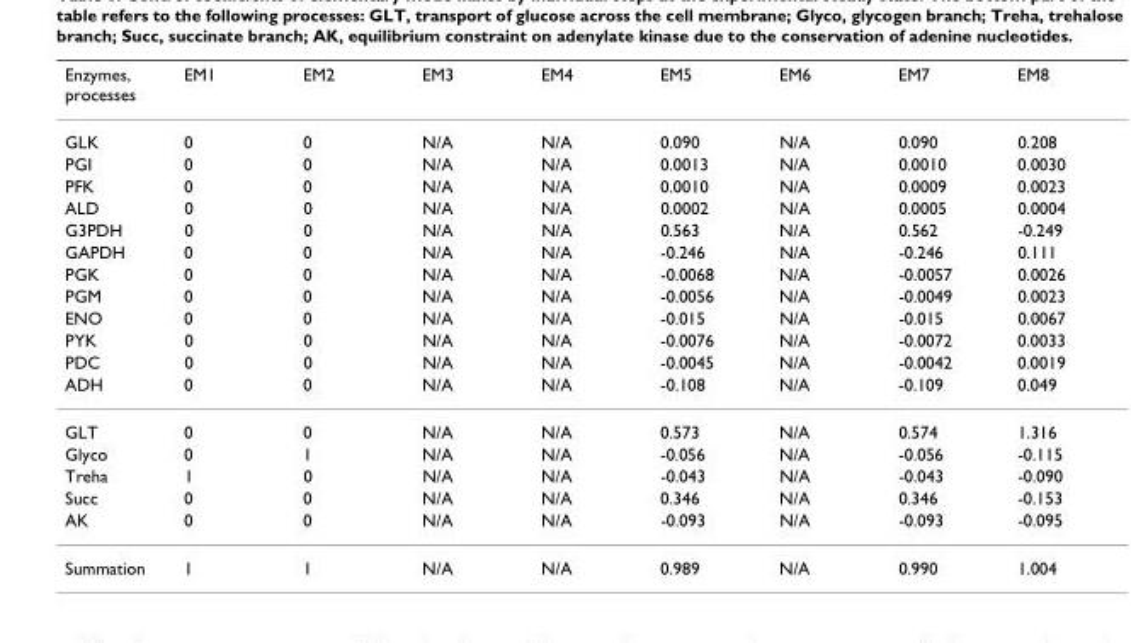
<table><thead><tr><td>Enzymes, processes</td><td>EM1</td><td>EM2</td><td>EM3</td><td>EM4</td><td>EM5</td><td>EM6</td><td>EM7</td><td>EM8</td></tr></thead><tbody><tr><td>GLK</td><td>0</td><td>0</td><td>N/A</td><td>N/A</td><td>0.090</td><td>N/A</td><td>0.090</td><td>0.208</td></tr><tr><td>PGI</td><td>0</td><td>0</td><td>N/A</td><td>N/A</td><td>0.0013</td><td>N/A</td><td>0.0010</td><td>0.0030</td></tr><tr><td>PFK</td><td>0</td><td>0</td><td>N/A</td><td>N/A</td><td>0.0010</td><td>N/A</td><td>0.0009</td><td>0.0023</td></tr><tr><td>ALD</td><td>0</td><td>0</td><td>N/A</td><td>N/A</td><td>0.0002</td><td>N/A</td><td>0.0005</td><td>0.0004</td></tr><tr><td>G3PDH</td><td>0</td><td>0</td><td>N/A</td><td>N/A</td><td>0.563</td><td>N/A</td><td>0.562</td><td>-0.249</td></tr><tr><td>GAPDH</td><td>0</td><td>0</td><td>N/A</td><td>N/A</td><td>-0.246</td><td>N/A</td><td>-0.246</td><td>0.111</td></tr><tr><td>PGK</td><td>0</td><td>0</td><td>N/A</td><td>N/A</td><td>-0.0068</td><td>N/A</td><td>-0.0057</td><td>0.0026</td></tr><tr><td>PGM</td><td>0</td><td>0</td><td>N/A</td><td>N/A</td><td>-0.0056</td><td>N/A</td><td>-0.0049</td><td>0.0023</td></tr><tr><td>ENO</td><td>0</td><td>0</td><td>N/A</td><td>N/A</td><td>-0.015</td><td>N/A</td><td>-0.015</td><td>0.0067</td></tr><tr><td>PYK</td><td>0</td><td>0</td><td>N/A</td><td>N/A</td><td>-0.0076</td><td>N/A</td><td>-0.0072</td><td>0.0033</td></tr><tr><td>PDC</td><td>0</td><td>0</td><td>N/A</td><td>N/A</td><td>-0.0045</td><td>N/A</td><td>-0.0042</td><td>0.0019</td></tr><tr><td>ADH</td><td>0</td><td>0</td><td>N/A</td><td>N/A</td><td>-0.108</td><td>N/A</td><td>-0.109</td><td>0.049</td></tr><tr><td>GLT</td><td>0</td><td>0</td><td>N/A</td><td>N/A</td><td>0.573</td><td>N/A</td><td>0.574</td><td>1.316</td></tr><tr><td>Glyco</td><td>0</td><td>1</td><td>N/A</td><td>N/A</td><td>-0.056</td><td>N/A</td><td>-0.056</td><td>-0.115</td></tr><tr><td>Treha</td><td>1</td><td>0</td><td>N/A</td><td>N/A</td><td>-0.043</td><td>N/A</td><td>-0.043</td><td>-0.090</td></tr><tr><td>Succ</td><td>0</td><td>0</td><td>N/A</td><td>N/A</td><td>0.346</td><td>N/A</td><td>0.346</td><td>-0.153</td></tr><tr><td>AK</td><td>0</td><td>0</td><td>N/A</td><td>N/A</td><td>-0.093</td><td>N/A</td><td>-0.093</td><td>-0.095</td></tr><tr><td>Summation</td><td>1</td><td>1</td><td>N/A</td><td>N/A</td><td>0.989</td><td>N/A</td><td>0.990</td><td>1.004</td></tr></tbody></table>